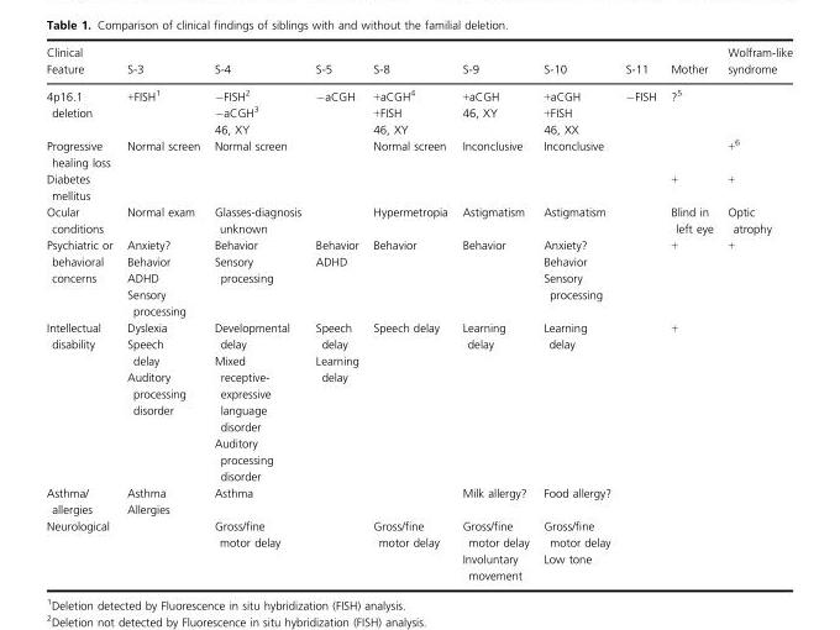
<table><thead><tr><td>Clinical Feature</td><td>S-3</td><td>S-4</td><td>S-5</td><td>S-8</td><td>S-9</td><td>S-10</td><td>S-11</td><td>Mother</td><td>Wolfram-like syndrome</td></tr></thead><tbody><tr><td>4p16.1 deletion</td><td>+FISH1</td><td>�FISH2 �aCGH3 46, XY</td><td>−aCGH</td><td>+aCGH4 +FISH 46, XY</td><td>+aCGH 46, XY</td><td>+aCGH +FISH 46, XX</td><td>−FISH</td><td>?5</td><td></td></tr><tr><td>Progressive healing loss</td><td>Normal screen</td><td>Normal screen</td><td></td><td>Normal screen</td><td>Inconclusive</td><td>Inconclusive</td><td></td><td></td><td>+6</td></tr><tr><td>Diabetes mellitus</td><td></td><td></td><td></td><td></td><td></td><td></td><td></td><td>+</td><td>+</td></tr><tr><td>Ocular conditions</td><td>Normal exam</td><td>Glasses-diagnosis unknown</td><td></td><td>Hypermetropia</td><td>Astigmatism</td><td>Astigmatism</td><td></td><td>Blind in left eye</td><td>Optic atrophy</td></tr><tr><td>Psychiatric or behavioral concerns</td><td>Anxiety? Behavior ADHD Sensory processing</td><td>Behavior Sensory processing</td><td>Behavior ADHD</td><td>Behavior</td><td>Behavior</td><td>Anxiety? Behavior Sensory processing</td><td></td><td>+</td><td>+</td></tr><tr><td>Intellectual disability</td><td>Dyslexia Speech delay Auditory processing disorder</td><td>Developmental delay Mixed receptive- expressive language disorder Auditory processing disorder</td><td>Speech delay Learning delay</td><td>Speech delay</td><td>Learning delay</td><td>Learning delay</td><td></td><td>+</td><td></td></tr><tr><td>Asthma/ allergies</td><td>Asthma Allergies</td><td>Asthma</td><td></td><td></td><td>Milk allergy?</td><td>Food allergy?</td><td></td><td></td><td></td></tr><tr><td>Neurological</td><td></td><td>Gross/fine motor delay</td><td></td><td>Gross/fine motor delay</td><td>Gross/fine motor delay Involuntary movement</td><td>Gross/fine motor delay Low tone</td><td></td><td></td><td></td></tr></tbody></table>